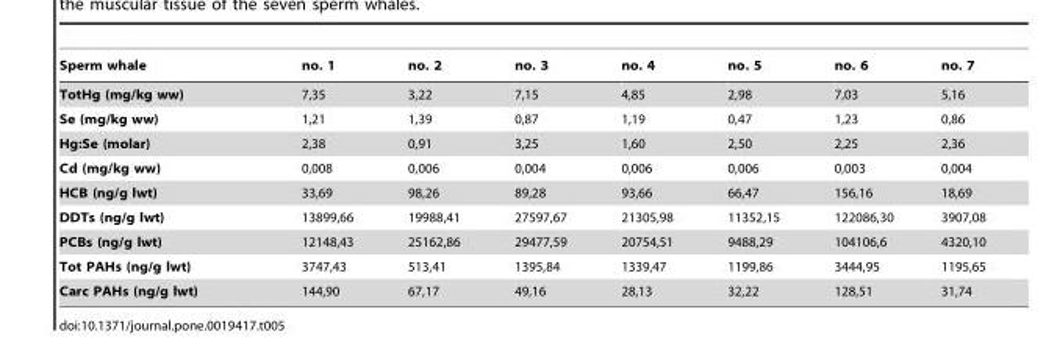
<table><thead><tr><td>Sperm whale</td><td>no. 1</td><td>no. 2</td><td>no. 3</td><td>no. 4</td><td>no. 5</td><td>no. 6</td><td>no. 7</td></tr></thead><tbody><tr><td>TotHg (mg/kg ww)</td><td>7,35</td><td>3,22</td><td>7,15</td><td>4,85</td><td>2,98</td><td>7,03</td><td>5,16</td></tr><tr><td>Se (mg/kg ww)</td><td>1,21</td><td>1,39</td><td>0,87</td><td>1,19</td><td>0,47</td><td>1,23</td><td>0,86</td></tr><tr><td>Hg:Se (molar)</td><td>2,38</td><td>0,91</td><td>3,25</td><td>1,60</td><td>2,50</td><td>2,25</td><td>2,36</td></tr><tr><td>Cd (mg/kg ww)</td><td>0,008</td><td>0,006</td><td>0,004</td><td>0,006</td><td>0,006</td><td>0,003</td><td>0,004</td></tr><tr><td>HCB (ng/g lwt)</td><td>33,69</td><td>98,26</td><td>89,28</td><td>93,66</td><td>66,47</td><td>156,16</td><td>18,69</td></tr><tr><td>DDTs (ng/g lwt)</td><td>13899,66</td><td>19988,41</td><td>27597,67</td><td>21305,98</td><td>11352,15</td><td>122086,30</td><td>3907,08</td></tr><tr><td>PCBs (ng/g lwt)</td><td>12148,43</td><td>25162,86</td><td>29477,59</td><td>20754,51</td><td>9488,29</td><td>104106,6</td><td>4320,10</td></tr><tr><td>Tot PAHs (ng/g lwt)</td><td>3747,43</td><td>513,41</td><td>1395,84</td><td>1339,47</td><td>1199,86</td><td>3444,95</td><td>1195,65</td></tr><tr><td>Carc PAHs (ng/g lwt)</td><td>144,90</td><td>67,17</td><td>49,16</td><td>28,13</td><td>32,22</td><td>128,51</td><td>31,74</td></tr></tbody></table>